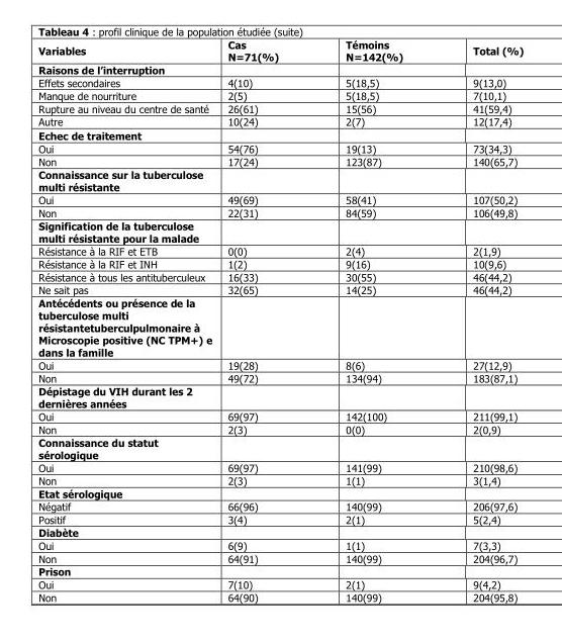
<table><thead><tr><td>Variables</td><td>Cas N=71(%)</td><td>Témoins N=142(%)</td><td>Total (%)</td></tr></thead><tbody><tr><td colspan="4">Raisons de l’interruption</td></tr><tr><td>Effets secondaires</td><td>4(10)</td><td>5(18,5)</td><td>9(13,0)</td></tr><tr><td>Manque de nourriture</td><td>2(5)</td><td>5(18,5)</td><td>7(10,1)</td></tr><tr><td>Rupture au niveau du centre de santé</td><td>26(61)</td><td>15(56)</td><td>41(59,4)</td></tr><tr><td>Autre</td><td>10(24)</td><td>2(7)</td><td>12(17,4)</td></tr><tr><td colspan="4">Echec de traitement</td></tr><tr><td>Oui</td><td>54(76)</td><td>19(13)</td><td>73(34,3)</td></tr><tr><td>Non</td><td>17(24)</td><td>123(87)</td><td>140(65,7)</td></tr><tr><td colspan="4">Connaissance sur la tuberculose multi résistante</td></tr><tr><td>Oui</td><td>49(69)</td><td>58(41)</td><td>107(50,2)</td></tr><tr><td>Non</td><td>22(31)</td><td>84(59)</td><td>106(49,8)</td></tr><tr><td colspan="4">Signification de la tuberculose multi résistante pour la malade</td></tr><tr><td>Résistance à la RIF et ETB</td><td>0(0)</td><td>2(4)</td><td>2(1,9)</td></tr><tr><td>Résistance à la RIF et INH</td><td>1(2)</td><td>9(16)</td><td>10(9,6)</td></tr><tr><td>Résistance à tous les antituberculeux</td><td>16(33)</td><td>30(55)</td><td>46(44,2)</td></tr><tr><td>Ne sait pas</td><td>32(65)</td><td>14(25)</td><td>46(44,2)</td></tr><tr><td colspan="4">Antécédents ou présence de la tuberculose multi résistantetuberculpulmonaire à Microscopie positive (NC TPM+) e dans la famille</td></tr><tr><td>Oui</td><td>19(28)</td><td>8(6)</td><td>27(12,9)</td></tr><tr><td>Non</td><td>49(72)</td><td>134(94)</td><td>183(87,1)</td></tr><tr><td colspan="4">Dépistage du VIH durant les 2 dernières années</td></tr><tr><td>Oui</td><td>69(97)</td><td>142(100)</td><td>211(99,1)</td></tr><tr><td>Non</td><td>2(3)</td><td>0(0)</td><td>2(0,9)</td></tr><tr><td colspan="4">Connaissance du statut sérologique</td></tr><tr><td>Oui</td><td>69(97)</td><td>141(99)</td><td>210(98,6)</td></tr><tr><td>Non</td><td>2(3)</td><td>1(1)</td><td>3(1,4)</td></tr><tr><td colspan="4">Etat sérologique</td></tr><tr><td>Négatif</td><td>66(96)</td><td>140(99)</td><td>206(97,6)</td></tr><tr><td>Positif</td><td>3(4)</td><td>2(1)</td><td>5(2,4)</td></tr><tr><td colspan="4">Diabète</td></tr><tr><td>Oui</td><td>6(9)</td><td>1(1)</td><td>7(3,3)</td></tr><tr><td>Non</td><td>64(91)</td><td>140(99)</td><td>204(96,7)</td></tr><tr><td colspan="4">Prison</td></tr><tr><td>Oui</td><td>7(10)</td><td>2(1)</td><td>9(4,2)</td></tr><tr><td>Non</td><td>64(90)</td><td>140(99)</td><td>204(95,8)</td></tr></tbody></table>